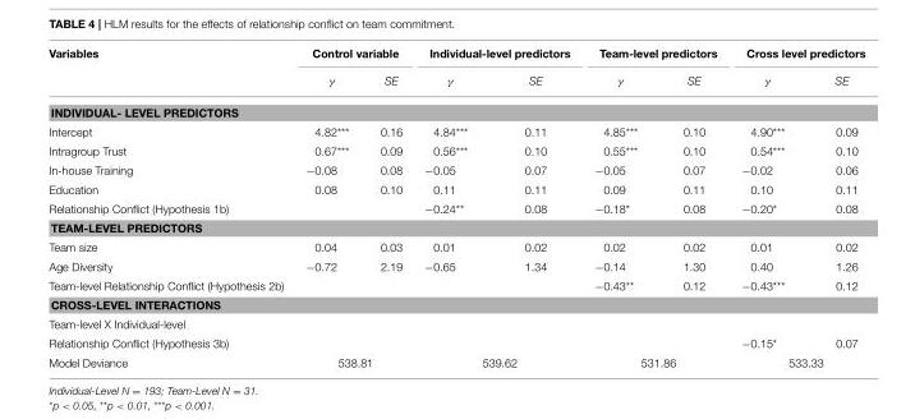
<table><thead><tr><td rowspan="2">Variables</td><td colspan="2">Control variable</td><td colspan="2">Individual-level predictors</td><td colspan="2">Team-level predictors</td><td colspan="2">Cross level predictors</td></tr><tr><td>γ</td><td>SE</td><td>γ</td><td>SE</td><td>γ</td><td>SE</td><td>γ</td><td>SE</td></tr></thead><tbody><tr><td colspan="9">INDIVIDUAL- LEVEL PREDICTORS</td></tr><tr><td>Intercept</td><td>4.82***</td><td>0.16</td><td>4.84***</td><td>0.11</td><td>4.85***</td><td>0.10</td><td>4.90***</td><td>0.09</td></tr><tr><td>Intragroup Trust</td><td>0.67***</td><td>0.09</td><td>0.56***</td><td>0.10</td><td>0.55***</td><td>0.10</td><td>0.54***</td><td>0.10</td></tr><tr><td>In-house Training</td><td>−0.08</td><td>0.08</td><td>−0.05</td><td>0.07</td><td>−0.05</td><td>0.07</td><td>−0.02</td><td>0.06</td></tr><tr><td>Education</td><td>0.08</td><td>0.10</td><td>0.11</td><td>0.11</td><td>0.09</td><td>0.11</td><td>0.10</td><td>0.11</td></tr><tr><td>Relationship Conflict (Hypothesis 1b)</td><td></td><td></td><td>−0.24**</td><td>0.08</td><td>−0.18*</td><td>0.08</td><td>−0.20*</td><td>0.08</td></tr><tr><td colspan="9">TEAM-LEVEL PREDICTORS</td></tr><tr><td>Team size</td><td>0.04</td><td>0.03</td><td>0.01</td><td>0.02</td><td>0.02</td><td>0.02</td><td>0.01</td><td>0.02</td></tr><tr><td>Age Diversity</td><td>−0.72</td><td>2.19</td><td>−0.65</td><td>1.34</td><td>−0.14</td><td>1.30</td><td>0.40</td><td>1.26</td></tr><tr><td>Team-level Relationship Conflict (Hypothesis 2b)</td><td></td><td></td><td></td><td></td><td>−0.43**</td><td>0.12</td><td>−0.43***</td><td>0.12</td></tr><tr><td colspan="9">CROSS-LEVEL INTERACTIONS</td></tr><tr><td colspan="9">Team-level X Individual-level</td></tr><tr><td>Relationship Conflict (Hypothesis 3b)</td><td></td><td></td><td></td><td></td><td></td><td></td><td>−0.15*</td><td>0.07</td></tr><tr><td>Model Deviance</td><td colspan="2">538.81</td><td colspan="2">539.62</td><td colspan="2">531.86</td><td colspan="2">533.33</td></tr></tbody></table>